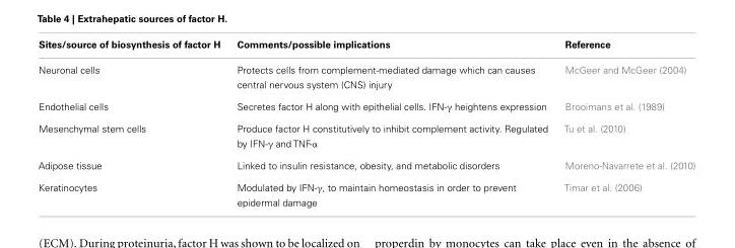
<table><thead><tr><td>Sites/source of biosynthesis of factor H</td><td>Comments/possible implications</td><td>Reference</td></tr></thead><tbody><tr><td>Neuronal cells</td><td>Protects cells from complement-mediated damage which can causes central nervous system (CNS) injury</td><td>McGeer and McGeer (2004)</td></tr><tr><td>Endothelial cells</td><td>Secretes factor H along with epithelial cells. IFN-γ heightens expression</td><td>Brooimans et al. (1989)</td></tr><tr><td>Mesenchymal stem cells</td><td>Produce factor H constitutively to inhibit complement activity. Regulated by IFN-γ and TNF-α</td><td>Tu et al. (2010)</td></tr><tr><td>Adipose tissue</td><td>Linked to insulin resistance, obesity, and metabolic disorders</td><td>Moreno-Navarrete et al. (2010)</td></tr><tr><td>Keratinocytes</td><td>Modulated by IFN-γ, to maintain homeostasis in order to prevent epidermal damage</td><td>Timar et al. (2006)</td></tr></tbody></table>